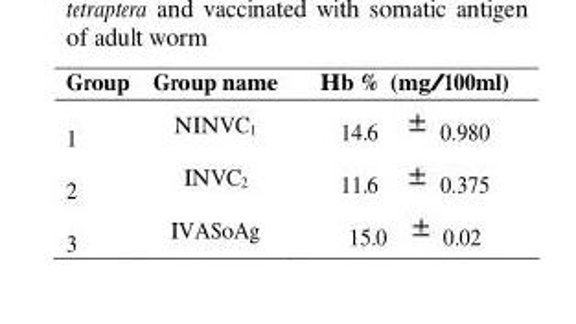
<table><thead><tr><td>Group</td><td>Group name</td><td>Hb % (mg/100ml)</td></tr></thead><tbody><tr><td>1</td><td>NINVC<sub>1</sub></td><td>14.6 0.980</td></tr><tr><td>2</td><td>INVC<sub>2</sub></td><td>11.6 0.375</td></tr><tr><td>3</td><td>IVASoAg</td><td>15.0 0.02</td></tr></tbody></table>